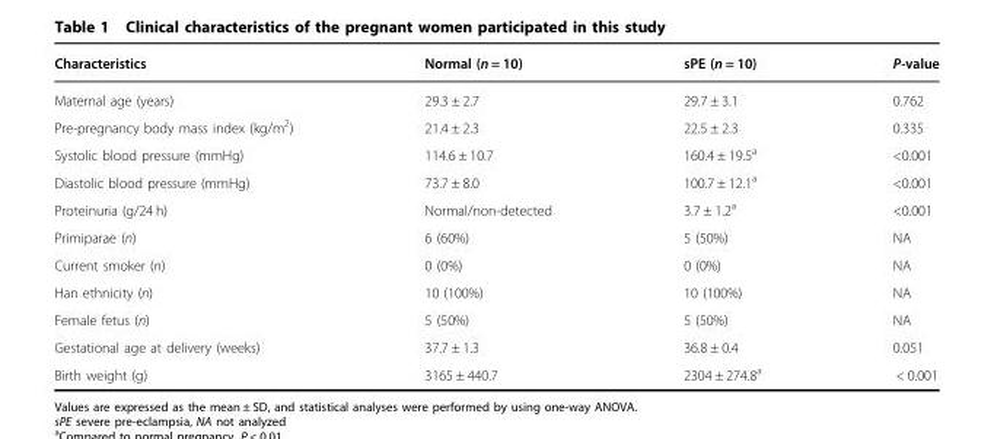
<table><thead><tr><td>Characteristics</td><td>Normal (n = 10)</td><td>sPE (n = 10)</td><td>P-value</td></tr></thead><tbody><tr><td>Maternal age (years)</td><td>29.3 ± 2.7</td><td>29.7 ± 3.1</td><td>0.762</td></tr><tr><td>Pre-pregnancy body mass index (kg/m<sup>2</sup>)</td><td>21.4 ± 2.3</td><td>22.5 ± 2.3</td><td>0.335</td></tr><tr><td>Systolic blood pressure (mmHg)</td><td>114.6 ± 10.7</td><td>160.4 ± 19.5<sup>a</sup></td><td>&lt;0.001</td></tr><tr><td>Diastolic blood pressure (mmHg)</td><td>73.7 ± 8.0</td><td>100.7 ± 12.1<sup>a</sup></td><td>&lt;0.001</td></tr><tr><td>Proteinuria (g/24 h)</td><td>Normal/non-detected</td><td>3.7 ± 1.2<sup>a</sup></td><td>&lt;0.001</td></tr><tr><td>Primiparae (n)</td><td>6 (60%)</td><td>5 (50%)</td><td>NA</td></tr><tr><td>Current smoker (n)</td><td>0 (0%)</td><td>0 (0%)</td><td>NA</td></tr><tr><td>Han ethnicity (n)</td><td>10 (100%)</td><td>10 (100%)</td><td>NA</td></tr><tr><td>Female fetus (n)</td><td>5 (50%)</td><td>5 (50%)</td><td>NA</td></tr><tr><td>Gestational age at delivery (weeks)</td><td>37.7 ± 1.3</td><td>36.8 ± 0.4</td><td>0.051</td></tr><tr><td>Birth weight (g)</td><td>3165 ± 440.7</td><td>2304 ± 274.8<sup>a</sup></td><td>&lt; 0.001</td></tr></tbody></table>